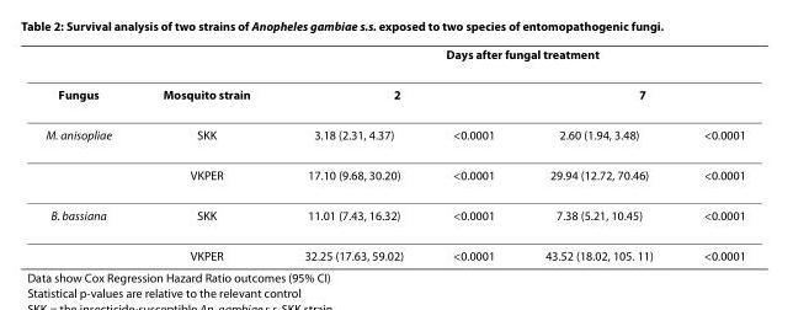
<table><thead><tr><td rowspan="3">Fungus M. anisopliae</td><td rowspan="3">Mosquito strain SKK</td><td colspan="4">Days after fungal treatment</td></tr><tr><td colspan="2">2</td><td colspan="2">7</td></tr><tr><td>3.18 (2.31, 4.37)</td><td>&lt;0.0001</td><td>2.60 (1.94, 3.48)</td><td>&lt;0.0001</td></tr></thead><tbody><tr><td></td><td>VKPER</td><td>17.10 (9.68, 30.20)</td><td>&lt;0.0001</td><td>29.94 (12.72, 70.46)</td><td>&lt;0.0001</td></tr><tr><td rowspan="2">B. bassiana</td><td>SKK</td><td>11.01 (7.43, 16.32)</td><td>&lt;0.0001</td><td>7.38 (5.21, 10.45)</td><td>&lt;0.0001</td></tr><tr><td>VKPER</td><td>32.25 (17.63, 59.02)</td><td>&lt;0.0001</td><td>43.52 (18.02, 105. 11)</td><td>&lt;0.0001</td></tr></tbody></table>